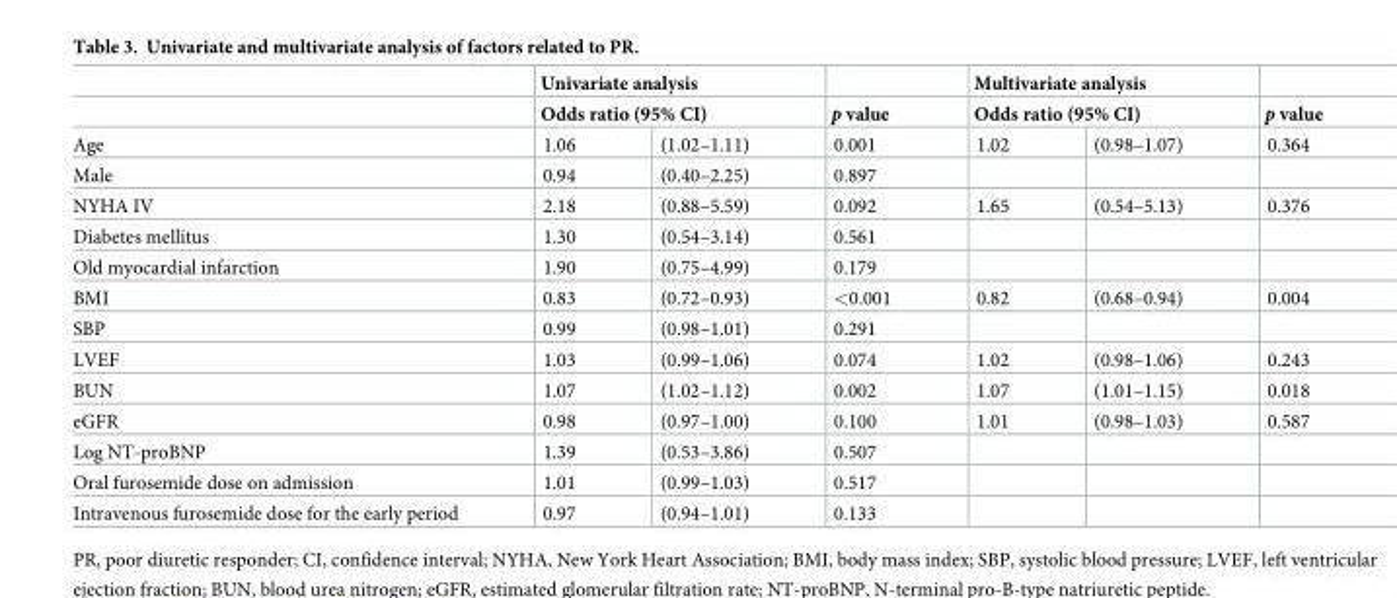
<table><thead><tr><td rowspan="3">Age</td><td rowspan="2" colspan="2">Univariate analysis Odds ratio (95% CI)</td><td rowspan="3">p value 0.001</td><td rowspan="2" colspan="2">Multivariate analysis Odds ratio (95% CI)</td><td rowspan="3">p value 0.364</td></tr><tr></tr><tr><td>1.06</td><td>(1.02–1.11)</td><td>1.02</td><td>(0.98–1.07)</td></tr></thead><tbody><tr><td>Male</td><td>0.94</td><td>(0.40–2.25)</td><td>0.897</td><td></td><td></td><td></td></tr><tr><td>NYHA IV</td><td>2.18</td><td>(0.88–5.59)</td><td>0.092</td><td>1.65</td><td>(0.54–5.13)</td><td>0.376</td></tr><tr><td>Diabetes mellitus</td><td>1.30</td><td>(0.54–3.14)</td><td>0.561</td><td></td><td></td><td></td></tr><tr><td>Old myocardial infarction</td><td>1.90</td><td>(0.75–4.99)</td><td>0.179</td><td></td><td></td><td></td></tr><tr><td>BMI</td><td>0.83</td><td>(0.72–0.93)</td><td>&lt;0.001</td><td>0.82</td><td>(0.68–0.94)</td><td>0.004</td></tr><tr><td>SBP</td><td>0.99</td><td>(0.98–1.01)</td><td>0.291</td><td></td><td></td><td></td></tr><tr><td>LVEF</td><td>1.03</td><td>(0.99–1.06)</td><td>0.074</td><td>1.02</td><td>(0.98–1.06)</td><td>0.243</td></tr><tr><td>BUN</td><td>1.07</td><td>(1.02–1.12)</td><td>0.002</td><td>1.07</td><td>(1.01–1.15)</td><td>0.018</td></tr><tr><td>eGFR</td><td>0.98</td><td>(0.97–1.00)</td><td>0.100</td><td>1.01</td><td>(0.98–1.03)</td><td>0.587</td></tr><tr><td>Log NT-proBNP</td><td>1.39</td><td>(0.53–3.86)</td><td>0.507</td><td></td><td></td><td></td></tr><tr><td>Oral furosemide dose on admission</td><td>1.01</td><td>(0.99–1.03)</td><td>0.517</td><td></td><td></td><td></td></tr><tr><td>Intravenous furosemide dose for the early period</td><td>0.97</td><td>(0.94–1.01)</td><td>0.133</td><td></td><td></td><td></td></tr></tbody></table>